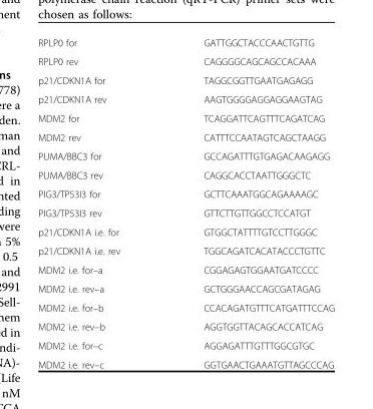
<table><tbody><tr><td>RPLP0 for</td><td>GATTGGCTACCCAACTGTTG</td></tr><tr><td>RPLP0 rev</td><td>CAGGGGCAGCAGCCACAAA</td></tr><tr><td>p21/CDKN1A for</td><td>TAGGCGGTTGAATGAGAGG</td></tr><tr><td>p21/CDKN1A rev</td><td>AAGTGGGGAGGAGGAAGTAG</td></tr><tr><td>MDM2 for</td><td>TCAGGATTCAGTTTCAGATCAG</td></tr><tr><td>MDM2 rev</td><td>CATTTCCAATAGTCAGCTAAGG</td></tr><tr><td>PUMA/BBC3 for</td><td>GCCAGATTTGTGAGACAAGAGG</td></tr><tr><td>PUMA/BBC3 rev</td><td>CAGGCACCTAATTGGGCTC</td></tr><tr><td>PIG3/TP53I3 for</td><td>GCTTCAAATGGCAGAAAAGC</td></tr><tr><td>PIG3/TP53I3 rev</td><td>GTTCTTGTTGGCCTCCATGT</td></tr><tr><td>p21/CDKN1A i.e. for</td><td>GTGGCTATTTTGTCCTTGGGC</td></tr><tr><td>p21/CDKN1A i.e. rev</td><td>TGGCAGATCACATACCCTGTTC</td></tr><tr><td>MDM2 i.e. for–a</td><td>CGGAGAGTGGAATGATCCCC</td></tr><tr><td>MDM2 i.e. rev–a</td><td>GCTGGGAACCAGCGATAGAG</td></tr><tr><td>MDM2 i.e. for–b</td><td>CCACAGATGTTTCATGATTTCCAG</td></tr><tr><td>MDM2 i.e. rev–b</td><td>AGGTGGTTACAGCACCATCAG</td></tr><tr><td>MDM2 i.e. for–c</td><td>AGGAGATTTGTTTGGCGTGC</td></tr><tr><td>MDM2 i.e. rev–c</td><td>GGTGAACTGAAATGTTAGCCCAG</td></tr></tbody></table>